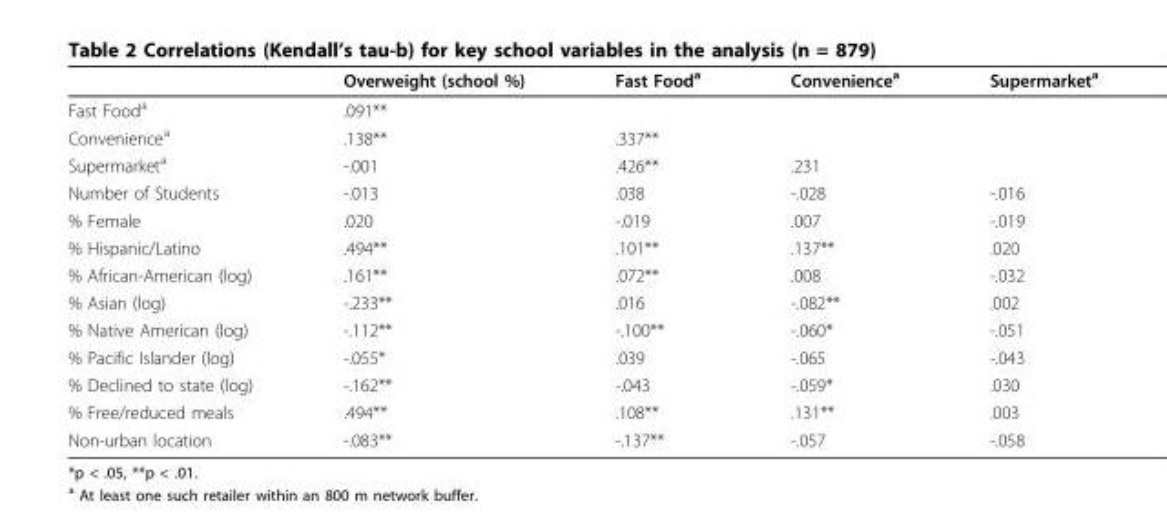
<table><thead><tr><td></td><td>Overweight (school %)</td><td>Fast Food<sup>a</sup></td><td>Convenience<sup>a</sup></td><td>Supermarket<sup>a</sup></td></tr></thead><tbody><tr><td>Fast Food<sup>a</sup></td><td>.091**</td><td></td><td></td><td></td></tr><tr><td>Convenience<sup>a</sup></td><td>.138**</td><td>.337**</td><td></td><td></td></tr><tr><td>Supermarket<sup>a</sup></td><td>-.001</td><td>.426**</td><td>.231</td><td></td></tr><tr><td>Number of Students</td><td>-.013</td><td>.038</td><td>-.028</td><td>-.016</td></tr><tr><td>% Female</td><td>.020</td><td>-.019</td><td>.007</td><td>-.019</td></tr><tr><td>% Hispanic/Latino</td><td>.494**</td><td>.101**</td><td>.137**</td><td>.020</td></tr><tr><td>% African-American (log)</td><td>.161**</td><td>.072**</td><td>.008</td><td>-.032</td></tr><tr><td>% Asian (log)</td><td>-.233**</td><td>.016</td><td>-.082**</td><td>.002</td></tr><tr><td>% Native American (log)</td><td>-.112**</td><td>-.100**</td><td>-.060*</td><td>-.051</td></tr><tr><td>% Pacific Islander (log)</td><td>-.055*</td><td>.039</td><td>-.065</td><td>-.043</td></tr><tr><td>% Declined to state (log)</td><td>-.162**</td><td>-.043</td><td>-.059*</td><td>.030</td></tr><tr><td>% Free/reduced meals</td><td>.494**</td><td>.108**</td><td>.131**</td><td>.003</td></tr><tr><td>Non-urban location</td><td>-.083**</td><td>-.137**</td><td>-.057</td><td>-.058</td></tr></tbody></table>